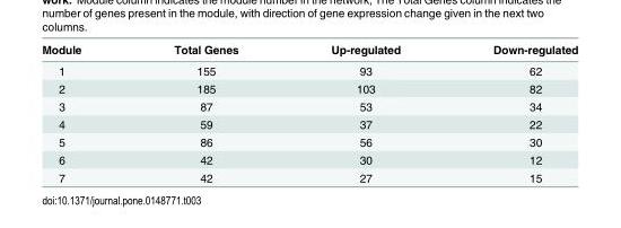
<table><thead><tr><td>Module</td><td>Total Genes</td><td>Up-regulated</td><td>Down-regulated</td></tr></thead><tbody><tr><td>1</td><td>155</td><td>93</td><td>62</td></tr><tr><td>2</td><td>185</td><td>103</td><td>82</td></tr><tr><td>3</td><td>87</td><td>53</td><td>34</td></tr><tr><td>4</td><td>59</td><td>37</td><td>22</td></tr><tr><td>5</td><td>86</td><td>56</td><td>30</td></tr><tr><td>6</td><td>42</td><td>30</td><td>12</td></tr><tr><td>7</td><td>42</td><td>27</td><td>15</td></tr></tbody></table>